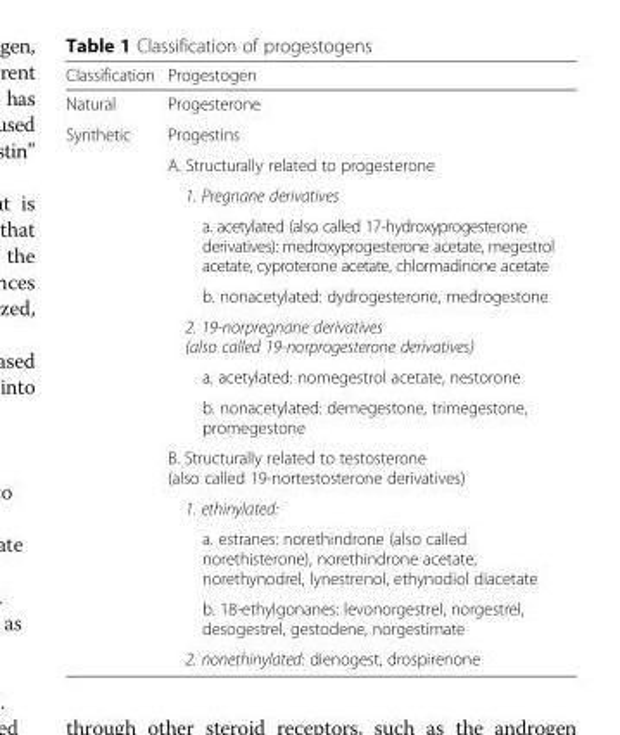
<table><thead><tr><td>Classification</td><td>Progestogen</td></tr></thead><tbody><tr><td>Natural</td><td>Progesterone</td></tr><tr><td rowspan="13">Synthetic</td><td>Progestins</td></tr><tr><td>A. Structurally related to progesterone</td></tr><tr><td>1. Pregnane derivatives</td></tr><tr><td>a. acetylated (also called 17-hydroxyprogesterone derivatives): medroxyprogesterone acetate, megestrol acetate, cyproterone acetate, chlormadinone acetate</td></tr><tr><td>b. nonacetylated: dydrogesterone, medrogestone</td></tr><tr><td>2. 19-norpregnane derivatives (also called 19-norprogesterone derivatives)</td></tr><tr><td>a. acetylated: nomegestrol acetate, nestorone</td></tr><tr><td>b. nonacetylated: demegestone, trimegestone, promegestone</td></tr><tr><td>B. Structurally related to testosterone (also called 19-nortestosterone derivatives)</td></tr><tr><td>1. ethinylated:</td></tr><tr><td>a. estranes: norethindrone (also called norethisterone), norethindrone acetate, norethynodrel, lynestrenol, ethynodiol diacetate</td></tr><tr><td>b. 18-ethylgonanes: levonorgestrel, norgestrel, desogestrel, gestodene, norgestimate</td></tr><tr><td>2. nonethinylated: dienogest, drospirenone</td></tr></tbody></table>